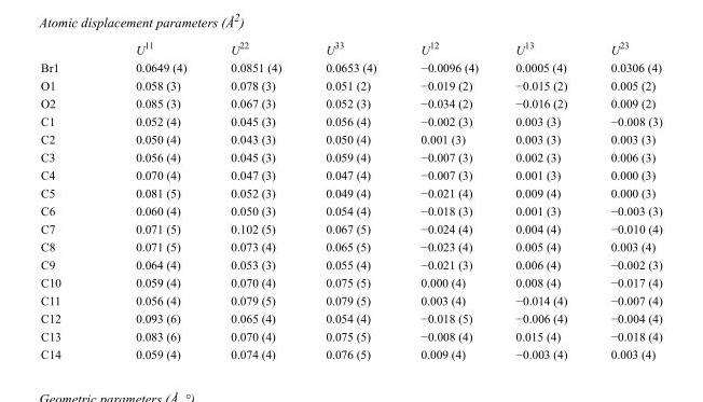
<table><thead><tr><td></td><td>U<sup>11</sup></td><td>U<sup>22</sup></td><td>U<sup>33</sup></td><td>U<sup>12</sup></td><td>U<sup>13</sup></td><td>U<sup>23</sup></td></tr></thead><tbody><tr><td>Br1</td><td>0.0649 (4)</td><td>0.0851 (4)</td><td>0.0653 (4)</td><td>−0.0096 (4)</td><td>0.0005 (4)</td><td>0.0306 (4)</td></tr><tr><td>O1</td><td>0.058 (3)</td><td>0.078 (3)</td><td>0.051 (2)</td><td>−0.019 (2)</td><td>−0.015 (2)</td><td>0.005 (2)</td></tr><tr><td>O2</td><td>0.085 (3)</td><td>0.067 (3)</td><td>0.052 (3)</td><td>−0.034 (2)</td><td>−0.016 (2)</td><td>0.009 (2)</td></tr><tr><td>C1</td><td>0.052 (4)</td><td>0.045 (3)</td><td>0.056 (4)</td><td>−0.002 (3)</td><td>0.003 (3)</td><td>−0.008 (3)</td></tr><tr><td>C2</td><td>0.050 (4)</td><td>0.043 (3)</td><td>0.050 (4)</td><td>0.001 (3)</td><td>0.003 (3)</td><td>0.003 (3)</td></tr><tr><td>C3</td><td>0.056 (4)</td><td>0.045 (3)</td><td>0.059 (4)</td><td>−0.007 (3)</td><td>0.002 (3)</td><td>0.006 (3)</td></tr><tr><td>C4</td><td>0.070 (4)</td><td>0.047 (3)</td><td>0.047 (4)</td><td>−0.007 (3)</td><td>0.001 (3)</td><td>0.000 (3)</td></tr><tr><td>C5</td><td>0.081 (5)</td><td>0.052 (3)</td><td>0.049 (4)</td><td>−0.021 (4)</td><td>0.009 (4)</td><td>0.000 (3)</td></tr><tr><td>C6</td><td>0.060 (4)</td><td>0.050 (3)</td><td>0.054 (4)</td><td>−0.018 (3)</td><td>0.001 (3)</td><td>−0.003 (3)</td></tr><tr><td>C7</td><td>0.071 (5)</td><td>0.102 (5)</td><td>0.067 (5)</td><td>−0.024 (4)</td><td>0.004 (4)</td><td>−0.010 (4)</td></tr><tr><td>C8</td><td>0.071 (5)</td><td>0.073 (4)</td><td>0.065 (5)</td><td>−0.023 (4)</td><td>0.005 (4)</td><td>0.003 (4)</td></tr><tr><td>C9</td><td>0.064 (4)</td><td>0.053 (3)</td><td>0.055 (4)</td><td>−0.021 (3)</td><td>0.006 (4)</td><td>−0.002 (3)</td></tr><tr><td>C10</td><td>0.059 (4)</td><td>0.070 (4)</td><td>0.075 (5)</td><td>0.000 (4)</td><td>0.008 (4)</td><td>−0.017 (4)</td></tr><tr><td>C11</td><td>0.056 (4)</td><td>0.079 (5)</td><td>0.079 (5)</td><td>0.003 (4)</td><td>−0.014 (4)</td><td>−0.007 (4)</td></tr><tr><td>C12</td><td>0.093 (6)</td><td>0.065 (4)</td><td>0.054 (4)</td><td>−0.018 (5)</td><td>−0.006 (4)</td><td>−0.004 (4)</td></tr><tr><td>C13</td><td>0.083 (6)</td><td>0.070 (4)</td><td>0.075 (5)</td><td>−0.008 (4)</td><td>0.015 (4)</td><td>−0.018 (4)</td></tr><tr><td>C14</td><td>0.059 (4)</td><td>0.074 (4)</td><td>0.076 (5)</td><td>0.009 (4)</td><td>−0.003 (4)</td><td>0.003 (4)</td></tr></tbody></table>